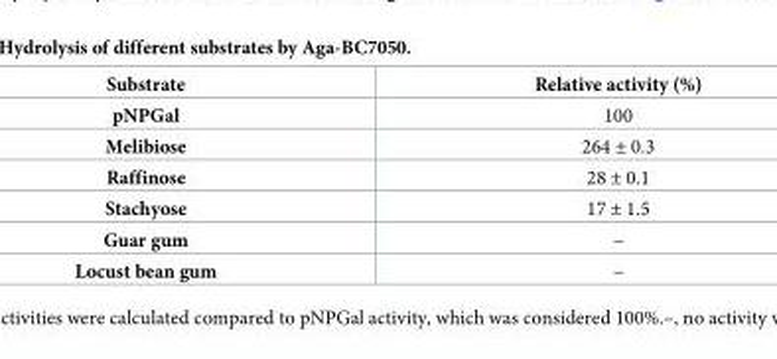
<table><thead><tr><td>Substrate</td><td>Relative activity (%)</td></tr></thead><tbody><tr><td>pNPGal</td><td>100</td></tr><tr><td>Melibiose</td><td>264 ± 0.3</td></tr><tr><td>Raffinose</td><td>28 ± 0.1</td></tr><tr><td>Stachyose</td><td>17 ± 1.5</td></tr><tr><td>Guar gum</td><td>−</td></tr><tr><td>Locust bean gum</td><td>−</td></tr></tbody></table>